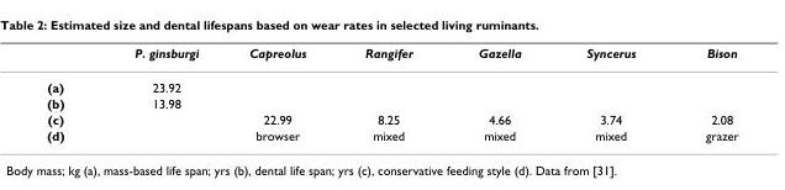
<table><thead><tr><td></td><td>P. ginsburgi</td><td>Capreolus</td><td>Rangifer</td><td>Gazella</td><td>Syncerus</td><td>Bison</td></tr></thead><tbody><tr><td>(a)</td><td>23.92</td><td></td><td></td><td></td><td></td><td></td></tr><tr><td>(b)</td><td>13.98</td><td></td><td></td><td></td><td></td><td></td></tr><tr><td>(c)</td><td></td><td>22.99</td><td>8.25</td><td>4.66</td><td>3.74</td><td>2.08</td></tr><tr><td>(d)</td><td></td><td>browser</td><td>mixed</td><td>mixed</td><td>mixed</td><td>grazer</td></tr></tbody></table>